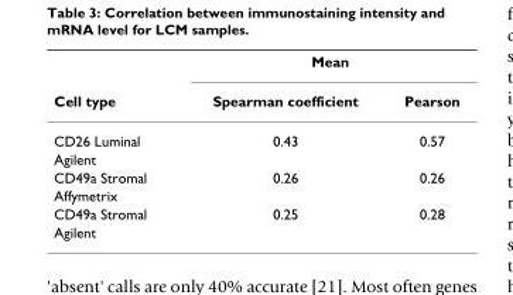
<table><thead><tr><td rowspan="2">Cell type</td><td colspan="2">Mean</td></tr><tr><td>Spearman coefficient</td><td>Pearson</td></tr></thead><tbody><tr><td>CD26 Luminal</td><td>0.43</td><td>0.57</td></tr><tr><td colspan="3">Agilent</td></tr><tr><td>CD49a Stromal</td><td>0.26</td><td>0.26</td></tr><tr><td colspan="3">Affymetrix</td></tr><tr><td>CD49a Stromal</td><td>0.25</td><td>0.28</td></tr><tr><td>Agilent</td><td></td><td></td></tr></tbody></table>